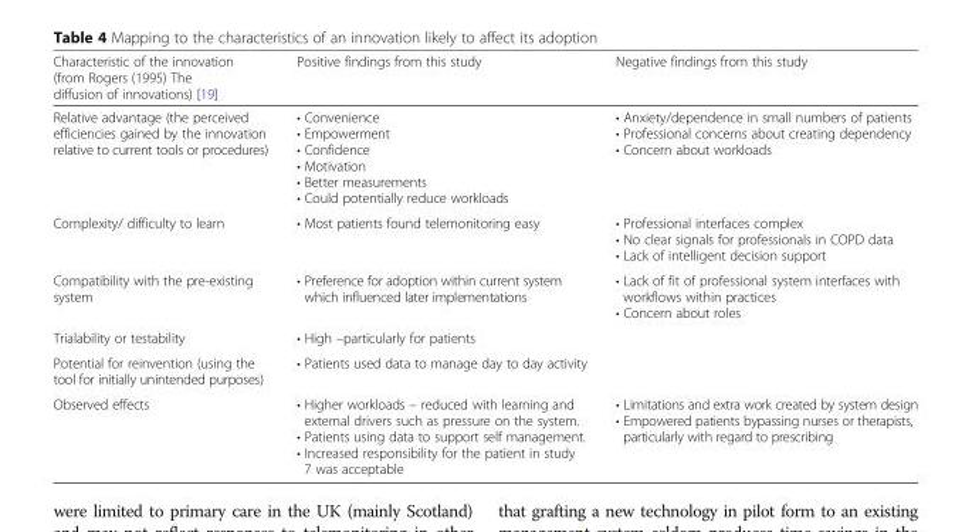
<table><thead><tr><td>Characteristic of the innovation (from Rogers (1995) The diffusion of innovations) [19]</td><td>Positive findings from this study</td><td>Negative findings from this study</td></tr></thead><tbody><tr><td>Relative advantage (the perceived efficiencies gained by the innovation relative to current tools or procedures)</td><td>• Convenience • Empowerment • Confidence • Motivation • Better measurements • Could potentially reduce workloads</td><td>• Anxiety/dependence in small numbers of patients • Professional concerns about creating dependency • Concern about workloads</td></tr><tr><td>Complexity/ difficulty to learn</td><td>• Most patients found telemonitoring easy</td><td>• Professional interfaces complex • No clear signals for professionals in COPD data • Lack of intelligent decision support</td></tr><tr><td>Compatibility with the pre-existing system</td><td>• Preference for adoption within current system which influenced later implementations</td><td>• Lack of fit of professional system interfaces with workflows within practices • Concern about roles</td></tr><tr><td>Trialability or testability</td><td>• High –particularly for patients</td><td></td></tr><tr><td>Potential for reinvention (using the tool for initially unintended purposes)</td><td>• Patients used data to manage day to day activity</td><td></td></tr><tr><td>Observed effects</td><td>• Higher workloads – reduced with learning and external drivers such as pressure on the system. • Patients using data to support self management. • Increased responsibility for the patient in study 7 was acceptable</td><td>• Limitations and extra work created by system design • Empowered patients bypassing nurses or therapists, particularly with regard to prescribing</td></tr></tbody></table>